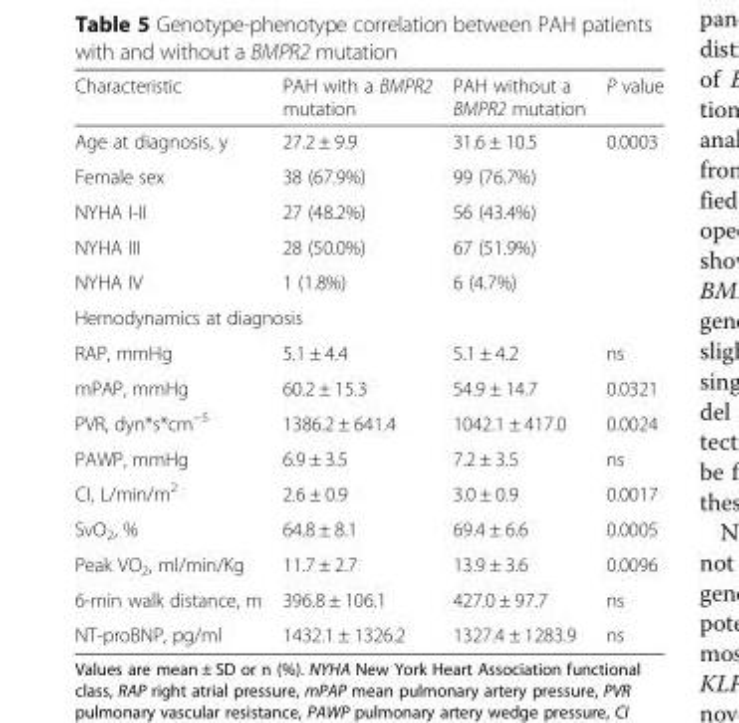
<table><thead><tr><td>Characteristic</td><td>PAH with a BMPR2 mutation</td><td>PAH without a BMPR2 mutation</td><td>P value</td></tr></thead><tbody><tr><td>Age at diagnosis, y</td><td>27.2 ± 9.9</td><td>31.6 ± 10.5</td><td>0.0003</td></tr><tr><td>Female sex</td><td>38 (67.9%)</td><td>99 (76.7%)</td><td></td></tr><tr><td>NYHA I-II</td><td>27 (48.2%)</td><td>56 (43.4%)</td><td></td></tr><tr><td>NYHA III</td><td>28 (50.0%)</td><td>67 (51.9%)</td><td></td></tr><tr><td>NYHA IV</td><td>1 (1.8%)</td><td>6 (4.7%)</td><td></td></tr><tr><td colspan="4">Hemodynamics at diagnosis</td></tr><tr><td>RAP, mmHg</td><td>5.1 ± 4.4</td><td>5.1 ± 4.2</td><td>ns</td></tr><tr><td>mPAP, mmHg</td><td>60.2 ± 15.3</td><td>54.9 ± 14.7</td><td>0.0321</td></tr><tr><td>PVR, dyn*s*cm<sup>−5</sup></td><td>1386.2 ± 641.4</td><td>1042.1 ± 417.0</td><td>0.0024</td></tr><tr><td>PAWP, mmHg</td><td>6.9 ± 3.5</td><td>7.2 ± 3.5</td><td>ns</td></tr><tr><td>CI, L/min/m<sup>2</sup></td><td>2.6 ± 0.9</td><td>3.0 ± 0.9</td><td>0.0017</td></tr><tr><td>SvO<sub>2</sub>, %</td><td>64.8 ± 8.1</td><td>69.4 ± 6.6</td><td>0.0005</td></tr><tr><td>Peak VO<sub>2</sub>, ml/min/Kg</td><td>11.7 ± 2.7</td><td>13.9 ± 3.6</td><td>0.0096</td></tr><tr><td>6-min walk distance, m</td><td>396.8 ± 106.1</td><td>427.0 ± 97.7</td><td>ns</td></tr><tr><td>NT-proBNP, pg/ml</td><td>1432.1 ± 1326.2</td><td>1327.4 ± 1283.9</td><td>ns</td></tr></tbody></table>